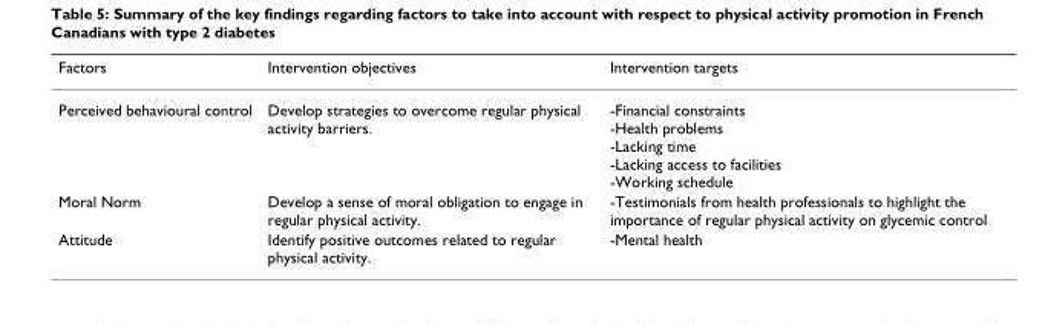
<table><thead><tr><td>Factors</td><td>Intervention objectives</td><td>Intervention targets</td></tr></thead><tbody><tr><td>Perceived behavioural control</td><td>Develop strategies to overcome regular physical activity barriers.</td><td>-Financial constraints -Health problems -Lacking time -Lacking access to facilities -Working schedule</td></tr><tr><td>Moral Norm</td><td>Develop a sense of moral obligation to engage in regular physical activity.</td><td>-Testimonials from health professionals to highlight the importance of regular physical activity on glycemic control</td></tr><tr><td>Attitude</td><td>Identify positive outcomes related to regular physical activity.</td><td>-Mental health</td></tr></tbody></table>